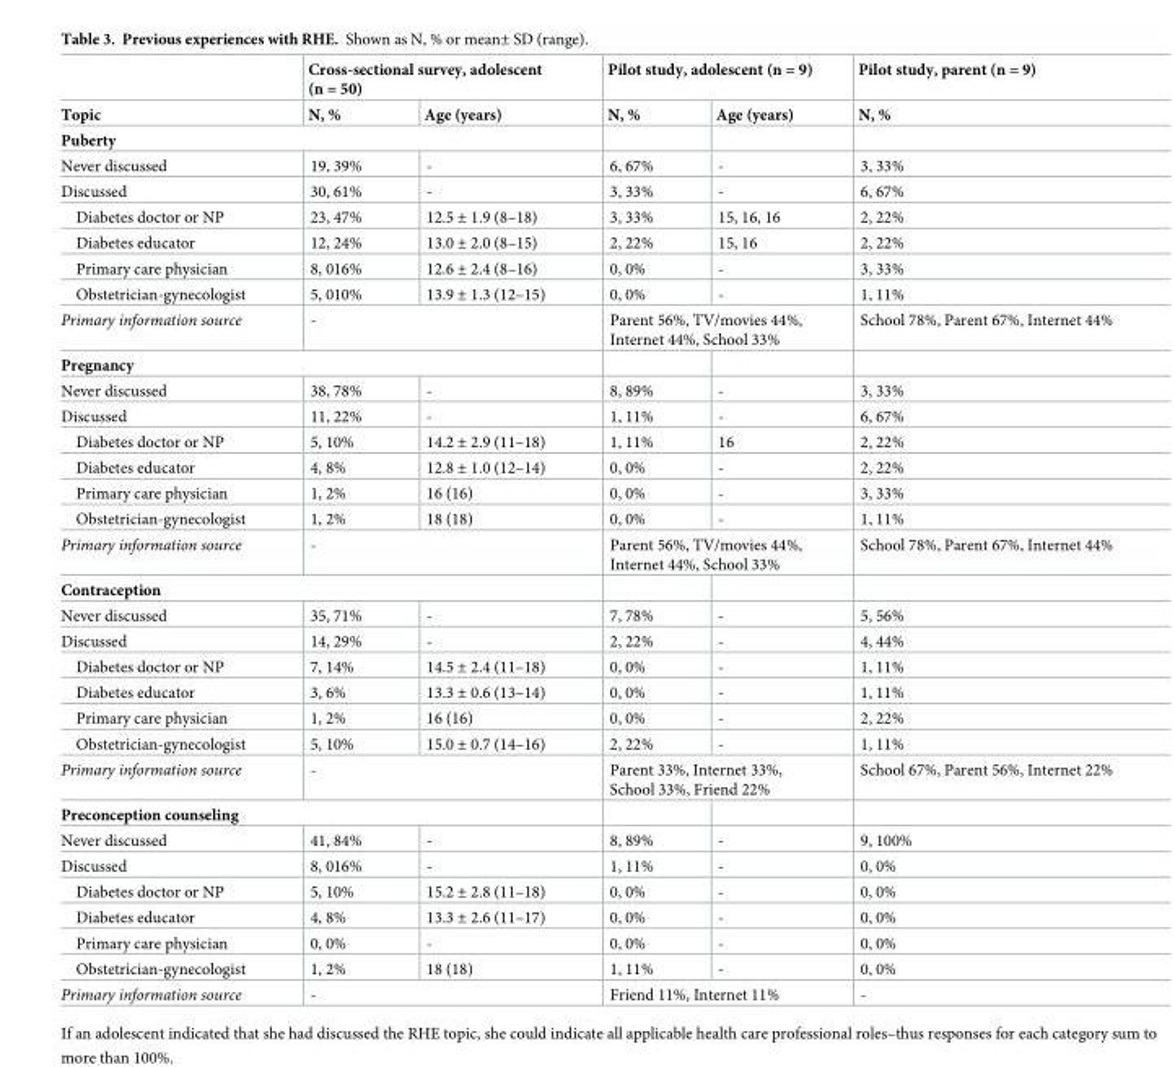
<table><thead><tr><td rowspan="2">Topic</td><td colspan="2">Cross-sectional survey, adolescent (n = 50)</td><td colspan="2">Pilot study, adolescent (n = 9)</td><td rowspan="2">Pilot study, parent (n = 9) N, %</td></tr><tr><td>N, %</td><td>Age (years)</td><td>N, %</td><td>Age (years)</td></tr></thead><tbody><tr><td colspan="6">Puberty</td></tr><tr><td>Never discussed</td><td>19, 39%</td><td>-</td><td>6, 67%</td><td>-</td><td>3, 33%</td></tr><tr><td>Discussed</td><td>30, 61%</td><td>-</td><td>3, 33%</td><td>-</td><td>6, 67%</td></tr><tr><td>Diabetes doctor or NP</td><td>23, 47%</td><td>12.5 ± 1.9 (8–18)</td><td>3, 33%</td><td>15, 16, 16</td><td>2, 22%</td></tr><tr><td>Diabetes educator</td><td>12, 24%</td><td>13.0 ± 2.0 (8–15)</td><td>2, 22%</td><td>15, 16</td><td>2, 22%</td></tr><tr><td>Primary care physician</td><td>8, 016%</td><td>12.6 ± 2.4 (8–16)</td><td>0, 0%</td><td>-</td><td>3, 33%</td></tr><tr><td>Obstetrician-gynecologist</td><td>5, 010%</td><td>13.9 ± 1.3 (12–15)</td><td>0, 0%</td><td>-</td><td>1, 11%</td></tr><tr><td>Primary information source</td><td colspan="2">-</td><td colspan="2">Parent 56%, TV/movies 44%, Internet 44%, School 33%</td><td>School 78%, Parent 67%, Internet 44%</td></tr><tr><td colspan="6">Pregnancy</td></tr><tr><td>Never discussed</td><td>38, 78%</td><td>-</td><td>8, 89%</td><td>-</td><td>3, 33%</td></tr><tr><td>Discussed</td><td>11, 22%</td><td>-</td><td>1, 11%</td><td>-</td><td>6, 67%</td></tr><tr><td>Diabetes doctor or NP</td><td>5, 10%</td><td>14.2 ± 2.9 (11–18)</td><td>1, 11%</td><td>16</td><td>2, 22%</td></tr><tr><td>Diabetes educator</td><td>4, 8%</td><td>12.8 ± 1.0 (12–14)</td><td>0, 0%</td><td>-</td><td>2, 22%</td></tr><tr><td>Primary care physician</td><td>1, 2%</td><td>16 (16)</td><td>0, 0%</td><td>-</td><td>3, 33%</td></tr><tr><td>Obstetrician-gynecologist</td><td>1, 2%</td><td>18 (18)</td><td>0, 0%</td><td>-</td><td>1, 11%</td></tr><tr><td>Primary information source</td><td colspan="2">-</td><td colspan="2">Parent 56%, TV/movies 44%, Internet 44%, School 33%</td><td>School 78%, Parent 67%, Internet 44%</td></tr><tr><td colspan="6">Contraception</td></tr><tr><td>Never discussed</td><td>35, 71%</td><td>-</td><td>7, 78%</td><td>-</td><td>5, 56%</td></tr><tr><td>Discussed</td><td>14, 29%</td><td>-</td><td>2, 22%</td><td>-</td><td>4, 44%</td></tr><tr><td>Diabetes doctor or NP</td><td>7, 14%</td><td>14.5 ± 2.4 (11–18)</td><td>0, 0%</td><td>-</td><td>1, 11%</td></tr><tr><td>Diabetes educator</td><td>3, 6%</td><td>13.3 ± 0.6 (13–14)</td><td>0, 0%</td><td>-</td><td>1, 11%</td></tr><tr><td>Primary care physician</td><td>1, 2%</td><td>16 (16)</td><td>0, 0%</td><td>-</td><td>2, 22%</td></tr><tr><td>Obstetrician-gynecologist</td><td>5, 10%</td><td>15.0 ± 0.7 (14–16)</td><td>2, 22%</td><td>-</td><td>1, 11%</td></tr><tr><td>Primary information source</td><td colspan="2">-</td><td colspan="2">Parent 33%, Internet 33%, School 33%, Friend 22%</td><td>School 67%, Parent 56%, Internet 22%</td></tr><tr><td colspan="6">Preconception counseling</td></tr><tr><td>Never discussed</td><td>41, 84%</td><td>-</td><td>8, 89%</td><td>-</td><td>9, 100%</td></tr><tr><td>Discussed</td><td>8, 016%</td><td>-</td><td>1, 11%</td><td>-</td><td>0, 0%</td></tr><tr><td>Diabetes doctor or NP</td><td>5, 10%</td><td>15.2 ± 2.8 (11–18)</td><td>0, 0%</td><td>-</td><td>0, 0%</td></tr><tr><td>Diabetes educator</td><td>4, 8%</td><td>13.3 ± 2.6 (11–17)</td><td>0, 0%</td><td>-</td><td>0, 0%</td></tr><tr><td>Primary care physician</td><td>0, 0%</td><td>-</td><td>0, 0%</td><td>-</td><td>0, 0%</td></tr><tr><td>Obstetrician-gynecologist</td><td>1, 2%</td><td>18 (18)</td><td>1, 11%</td><td>-</td><td>0, 0%</td></tr><tr><td>Primary information source</td><td colspan="2">-</td><td colspan="2">Friend 11%, Internet 11%</td><td>-</td></tr></tbody></table>